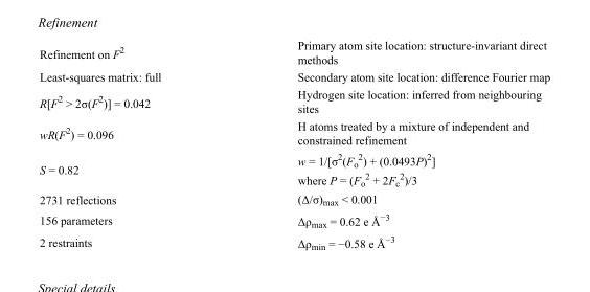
<table><tbody><tr><td>Refinement on F<sup>2</sup></td><td>Primary atom site location: structure-invariant direct methods</td></tr><tr><td>Least-squares matrix: full</td><td>Secondary atom site location: difference Fourier map</td></tr><tr><td>R[F<sup>2</sup> &gt; 2σ(F<sup>2</sup>)] = 0.042</td><td>Hydrogen site location: inferred from neighbouring sites</td></tr><tr><td>wR(F<sup>2</sup>) = 0.096</td><td>H atoms treated by a mixture of independent and constrained refinement</td></tr><tr><td>S = 0.82</td><td>w = 1/[σ<sup>2</sup>(F<sub>o</sub> <sup>2</sup>) + (0.0493P)<sup>2</sup>] where P = (F<sub>o</sub> <sup>2</sup> + 2F<sub>c</sub> <sup>2</sup>)/3</td></tr><tr><td>2731 reflections</td><td>(Δ/σ)<sub>max</sub> &lt; 0.001</td></tr><tr><td>156 parameters</td><td>Δρ<sub>max</sub> = 0.62 e Å<sup>−3</sup></td></tr><tr><td>2 restraints</td><td>Δρ<sub>min</sub> = −0.58 e Å<sup>−3</sup></td></tr></tbody></table>